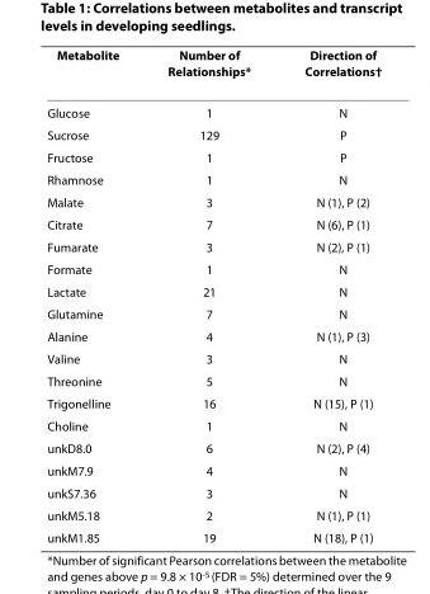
<table><thead><tr><td>Metabolite</td><td>Number of Relationships*</td><td>Direction of Correlations†</td></tr></thead><tbody><tr><td>Glucose</td><td>1</td><td>N</td></tr><tr><td>Sucrose</td><td>129</td><td>P</td></tr><tr><td>Fructose</td><td>1</td><td>P</td></tr><tr><td>Rhamnose</td><td>1</td><td>N</td></tr><tr><td>Malate</td><td>3</td><td>N (1), P (2)</td></tr><tr><td>Citrate</td><td>7</td><td>N (6), P (1)</td></tr><tr><td>Fumarate</td><td>3</td><td>N (2), P (1)</td></tr><tr><td>Formate</td><td>1</td><td>N</td></tr><tr><td>Lactate</td><td>21</td><td>N</td></tr><tr><td>Glutamine</td><td>7</td><td>N</td></tr><tr><td>Alanine</td><td>4</td><td>N (1), P (3)</td></tr><tr><td>Valine</td><td>3</td><td>N</td></tr><tr><td>Threonine</td><td>5</td><td>N</td></tr><tr><td>Trigonelline</td><td>16</td><td>N (15), P (1)</td></tr><tr><td>Choline</td><td>1</td><td>N</td></tr><tr><td>unkD8.0</td><td>6</td><td>N (2), P (4)</td></tr><tr><td>unkM7.9</td><td>4</td><td>N</td></tr><tr><td>unkS7.36</td><td>3</td><td>N</td></tr><tr><td>unkM5.18</td><td>2</td><td>N (1), P (1)</td></tr><tr><td>unkM1.85</td><td>19</td><td>N (18), P (1)</td></tr></tbody></table>